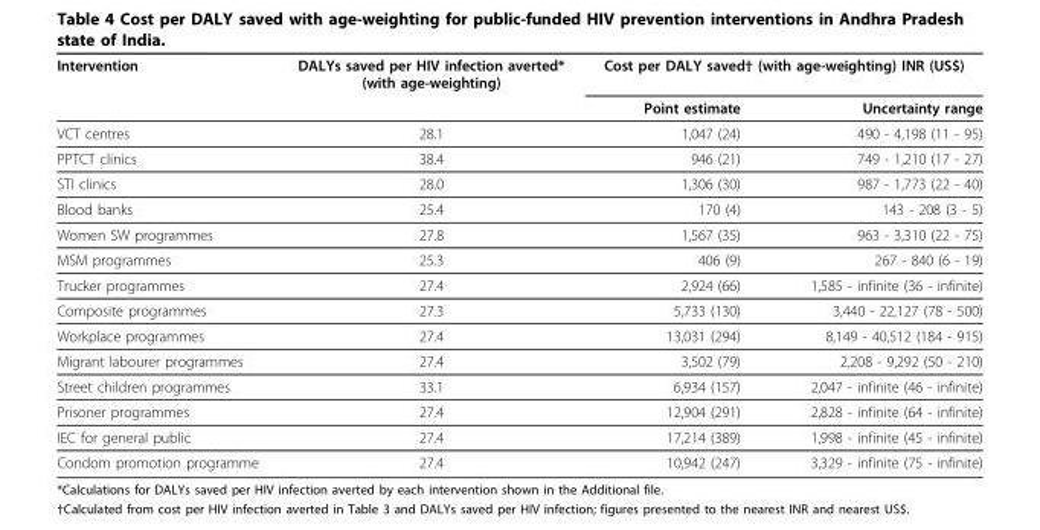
<table><thead><tr><td rowspan="2">Intervention</td><td rowspan="2">DALYs saved per HIV infection averted* (with age-weighting)</td><td colspan="2">Cost per DALY saved† (with age-weighting) INR (US$)</td></tr><tr><td>Point estimate</td><td>Uncertainty range</td></tr></thead><tbody><tr><td>VCT centres</td><td>28.1</td><td>1,047 (24)</td><td>490 - 4,198 (11 - 95)</td></tr><tr><td>PPTCT clinics</td><td>38.4</td><td>946 (21)</td><td>749 - 1,210 (17 - 27)</td></tr><tr><td>STI clinics</td><td>28.0</td><td>1,306 (30)</td><td>987 - 1,773 (22 - 40)</td></tr><tr><td>Blood banks</td><td>25.4</td><td>170 (4)</td><td>143 - 208 (3 - 5)</td></tr><tr><td>Women SW programmes</td><td>27.8</td><td>1,567 (35)</td><td>963 - 3,310 (22 - 75)</td></tr><tr><td>MSM programmes</td><td>25.3</td><td>406 (9)</td><td>267 - 840 (6 - 19)</td></tr><tr><td>Trucker programmes</td><td>27.4</td><td>2,924 (66)</td><td>1,585 - infinite (36 - infinite)</td></tr><tr><td>Composite programmes</td><td>27.3</td><td>5,733 (130)</td><td>3,440 - 22,127 (78 - 500)</td></tr><tr><td>Workplace programmes</td><td>27.4</td><td>13,031 (294)</td><td>8,149 - 40,512 (184 - 915)</td></tr><tr><td>Migrant labourer programmes</td><td>27.4</td><td>3,502 (79)</td><td>2,208 - 9,292 (50 - 210)</td></tr><tr><td>Street children programmes</td><td>33.1</td><td>6,934 (157)</td><td>2,047 - infinite (46 - infinite)</td></tr><tr><td>Prisoner programmes</td><td>27.4</td><td>12,904 (291)</td><td>2,828 - infinite (64 - infinite)</td></tr><tr><td>IEC for general public</td><td>27.4</td><td>17,214 (389)</td><td>1,998 - infinite (45 - infinite)</td></tr><tr><td>Condom promotion programme</td><td>27.4</td><td>10,942 (247)</td><td>3,329 - infinite (75 - infinite)</td></tr></tbody></table>